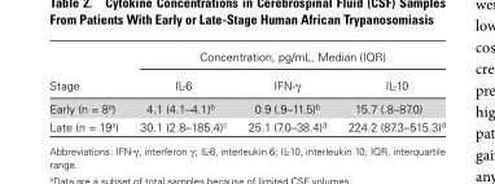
<table><thead><tr><td rowspan="2">Stage</td><td colspan="3">Concentration, pg/mL, Median (IQR)</td></tr><tr><td>IL-6</td><td>IFN-γ</td><td>IL-10</td></tr></thead><tbody><tr><td>Early (n = 8<sup>a</sup>)</td><td>4.1 (4.1–4.1)<sup>b</sup></td><td>0.9 (.9–11.5)<sup>b</sup></td><td>15.7 (.8–87.0)</td></tr><tr><td>Late (n = 19<sup>a</sup>)</td><td>30.1 (2.8–185.4)<sup>c</sup></td><td>25.1 (7.0–38.4)<sup>d</sup></td><td>224.2 (87.3–515.3)<sup>d</sup></td></tr></tbody></table>